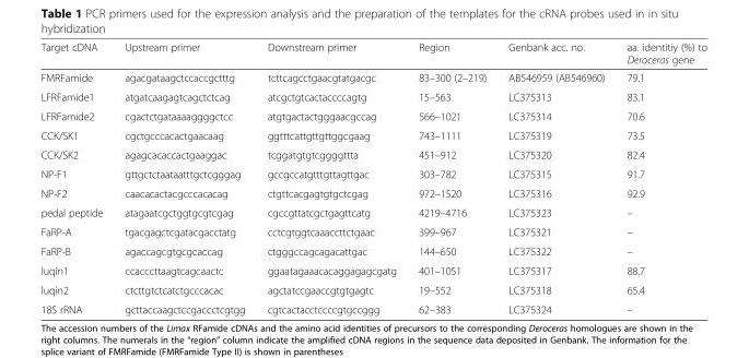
<table><thead><tr><td>Target cDNA</td><td>Upstream primer</td><td>Downstream primer</td><td>Region</td><td>Genbank acc. no.</td><td>aa. identitiy (%) to Deroceras gene</td></tr></thead><tbody><tr><td>FMRFamide</td><td>agacgataagctccaccgctttg</td><td>tcttcagcctgaacgtatgacgc</td><td>83–300 (2–219)</td><td>AB546959 (AB546960)</td><td>79.1</td></tr><tr><td>LFRFamide1</td><td>atgatcaagagtcagctctcag</td><td>atcgctgtcactaccccagtg</td><td>15–563</td><td>LC375313</td><td>83.1</td></tr><tr><td>LFRFamide2</td><td>cgactctgataaaaggggctcc</td><td>atgtgactactgggaacgccag</td><td>566–1021</td><td>LC375314</td><td>70.6</td></tr><tr><td>CCK/SK1</td><td>cgctgcccacactgaacaag</td><td>ggtttcattgttgttggcgaag</td><td>743–1111</td><td>LC375319</td><td>73.5</td></tr><tr><td>CCK/SK2</td><td>agagcacaccactgaaggac</td><td>tcggatgtgtcggggttta</td><td>451–912</td><td>LC375320</td><td>82.4</td></tr><tr><td>NP-F1</td><td>gttgctctaataatttgctcgggag</td><td>gccgccatgtttgttagttgac</td><td>303–782</td><td>LC375315</td><td>91.7</td></tr><tr><td>NP-F2</td><td>caacacactacgcccacacag</td><td>ctgttcacgagtgtgctcgag</td><td>972–1520</td><td>LC375316</td><td>92.9</td></tr><tr><td>pedal peptide</td><td>atagaatcgctggtgcgtcgag</td><td>cgccgttatcgctgagttcatg</td><td>4219–4716</td><td>LC375323</td><td>–</td></tr><tr><td>FaRP-A</td><td>tgacgagctcgatacgacctatg</td><td>cctcgtggtcaaaccttctgaac</td><td>399–967</td><td>LC375321</td><td>–</td></tr><tr><td>FaRP-B</td><td>agaccagcgtgcgcaccag</td><td>ctgggccagcagacattgac</td><td>144–650</td><td>LC375322</td><td>–</td></tr><tr><td>luqin1</td><td>ccacccttaagtcagcaactc</td><td>ggaatagaaacacaggagagcgatg</td><td>401–1051</td><td>LC375317</td><td>88.7</td></tr><tr><td>luqin2</td><td>ctcttgtctcatctgcccacac</td><td>agctatccgaaccgtgtgagtc</td><td>19–552</td><td>LC375318</td><td>65.4</td></tr><tr><td>18S rRNA</td><td>gcttaccaagctccgaccctcgtgg</td><td>cgtcactacctccccgtgccggg</td><td>62–383</td><td>LC375324</td><td>–</td></tr></tbody></table>